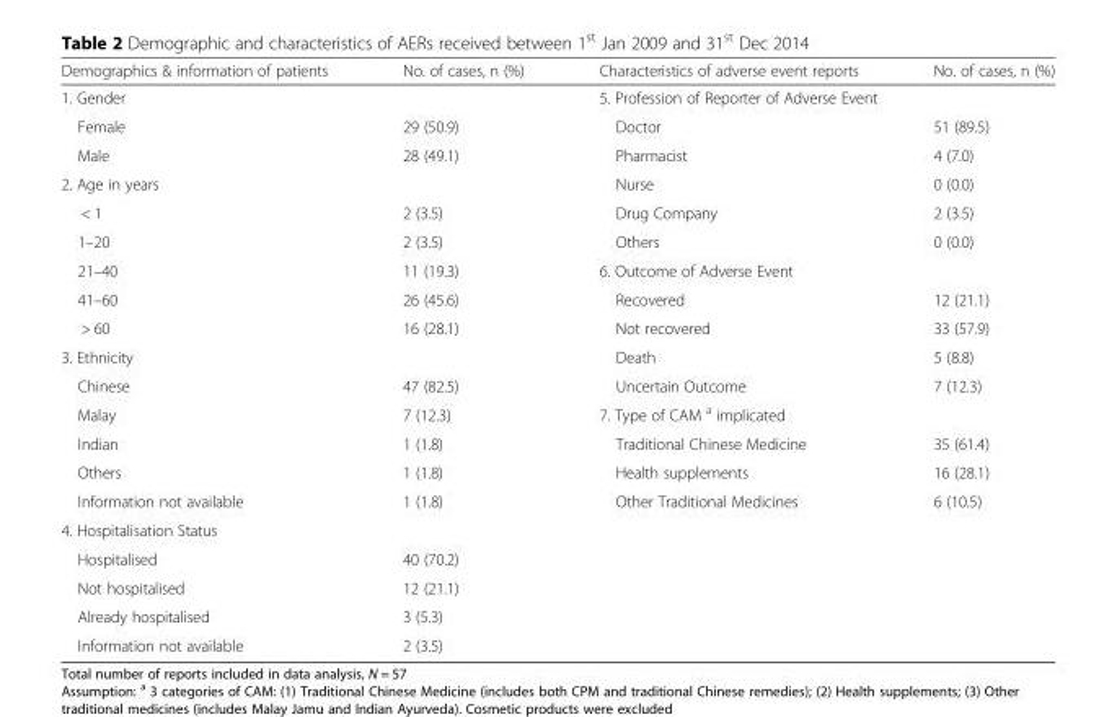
<table><thead><tr><td>Demographics &amp; information of patients</td><td>No. of cases, n (%)</td><td>Characteristics of adverse event reports</td><td>No. of cases, n (%)</td></tr></thead><tbody><tr><td colspan="2">1. Gender</td><td colspan="2">5. Profession of Reporter of Adverse Event</td></tr><tr><td>Female</td><td>29 (50.9)</td><td>Doctor</td><td>51 (89.5)</td></tr><tr><td>Male</td><td>28 (49.1)</td><td>Pharmacist</td><td>4 (7.0)</td></tr><tr><td colspan="2">2. Age in years</td><td>Nurse</td><td>0 (0.0)</td></tr><tr><td>&lt; 1</td><td>2 (3.5)</td><td>Drug Company</td><td>2 (3.5)</td></tr><tr><td>1–20</td><td>2 (3.5)</td><td>Others</td><td>0 (0.0)</td></tr><tr><td>21–40</td><td>11 (19.3)</td><td colspan="2">6. Outcome of Adverse Event</td></tr><tr><td>41–60</td><td>26 (45.6)</td><td>Recovered</td><td>12 (21.1)</td></tr><tr><td>&gt; 60</td><td>16 (28.1)</td><td>Not recovered</td><td>33 (57.9)</td></tr><tr><td colspan="2">3. Ethnicity</td><td>Death</td><td>5 (8.8)</td></tr><tr><td>Chinese</td><td>47 (82.5)</td><td>Uncertain Outcome</td><td>7 (12.3)</td></tr><tr><td>Malay</td><td>7 (12.3)</td><td colspan="2">7. Type of CAM <sup>a</sup> implicated</td></tr><tr><td>Indian</td><td>1 (1.8)</td><td>Traditional Chinese Medicine</td><td>35 (61.4)</td></tr><tr><td>Others</td><td>1 (1.8)</td><td>Health supplements</td><td>16 (28.1)</td></tr><tr><td>Information not available</td><td>1 (1.8)</td><td>Other Traditional Medicines</td><td>6 (10.5)</td></tr><tr><td colspan="4">4. Hospitalisation Status</td></tr><tr><td>Hospitalised</td><td>40 (70.2)</td><td></td><td></td></tr><tr><td>Not hospitalised</td><td>12 (21.1)</td><td></td><td></td></tr><tr><td>Already hospitalised</td><td>3 (5.3)</td><td></td><td></td></tr><tr><td>Information not available</td><td>2 (3.5)</td><td></td><td></td></tr></tbody></table>